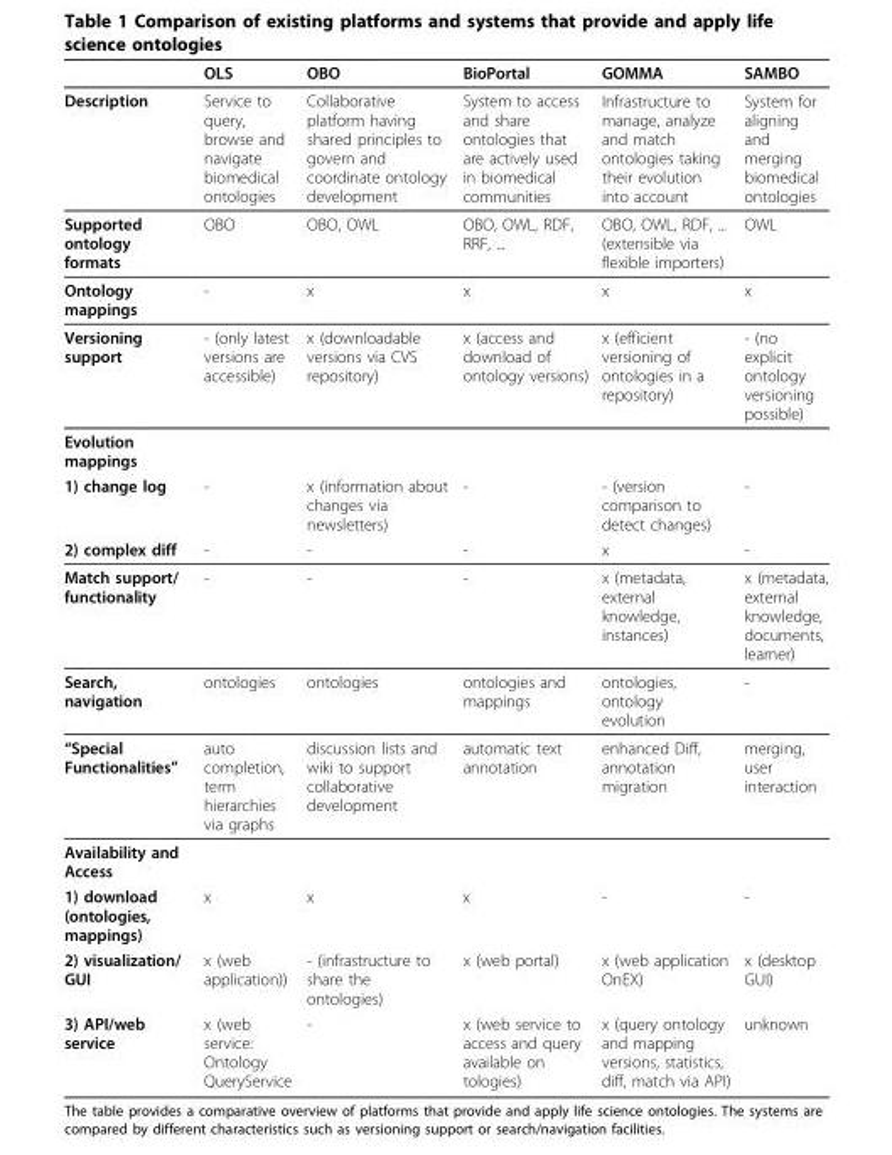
<table><thead><tr><td></td><td>OLS</td><td>OBO</td><td>BioPortal</td><td>GOMMA</td><td>SAMBO</td></tr></thead><tbody><tr><td>Description</td><td>Service to query, browse and navigate biomedical ontologies</td><td>Collaborative platform having shared principles to govern and coordinate ontology development</td><td>System to access and share ontologies that are actively used in biomedical communities</td><td>Infrastructure to manage, analyze and match ontologies taking their evolution into account</td><td>System for aligning and merging biomedical ontologies</td></tr><tr><td>Supported ontology formats</td><td>OBO</td><td>OBO, OWL</td><td>OBO, OWL, RDF, RRF, ...</td><td>OBO, OWL, RDF, ... (extensible via flexible importers)</td><td>OWL</td></tr><tr><td>Ontology mappings</td><td>-</td><td>x</td><td>x</td><td>x</td><td>x</td></tr><tr><td>Versioning support</td><td>- (only latest versions are accessible)</td><td>x (downloadable versions via CVS repository)</td><td>x (access and download of ontology versions)</td><td>x (efficient versioning of ontologies in a repository)</td><td>- (no explicit ontology versioning possible)</td></tr><tr><td colspan="6">Evolution mappings</td></tr><tr><td>1) change log</td><td>-</td><td>x (information about changes via newsletters)</td><td>-</td><td>- (version comparison to detect changes)</td><td>-</td></tr><tr><td>2) complex diff</td><td>-</td><td>-</td><td>-</td><td>x</td><td>-</td></tr><tr><td>Match support/ functionality</td><td>-</td><td>-</td><td>-</td><td>x (metadata, external knowledge, instances)</td><td>x (metadata, external knowledge, documents, learner)</td></tr><tr><td>Search, navigation</td><td>ontologies</td><td>ontologies</td><td>ontologies and mappings</td><td>ontologies, ontology evolution</td><td>-</td></tr><tr><td>“Special Functionalities”</td><td>auto completion, term hierarchies via graphs</td><td>discussion lists and wiki to support collaborative development</td><td>automatic text annotation</td><td>enhanced Diff, annotation migration</td><td>merging, user interaction</td></tr><tr><td colspan="6">Availability and Access</td></tr><tr><td>1) download (ontologies, mappings)</td><td>x</td><td>x</td><td>x</td><td>-</td><td>-</td></tr><tr><td>2) visualization/ GUI</td><td>x (web application))</td><td>- (infrastructure to share the ontologies)</td><td>x (web portal)</td><td>x (web application OnEX)</td><td>x (desktop GUI)</td></tr><tr><td>3) API/web service</td><td>x (web service: Ontology QueryService</td><td>-</td><td>x (web service to access and query available on tologies)</td><td>x (query ontology and mapping versions, statistics, diff, match via API)</td><td>unknown</td></tr></tbody></table>